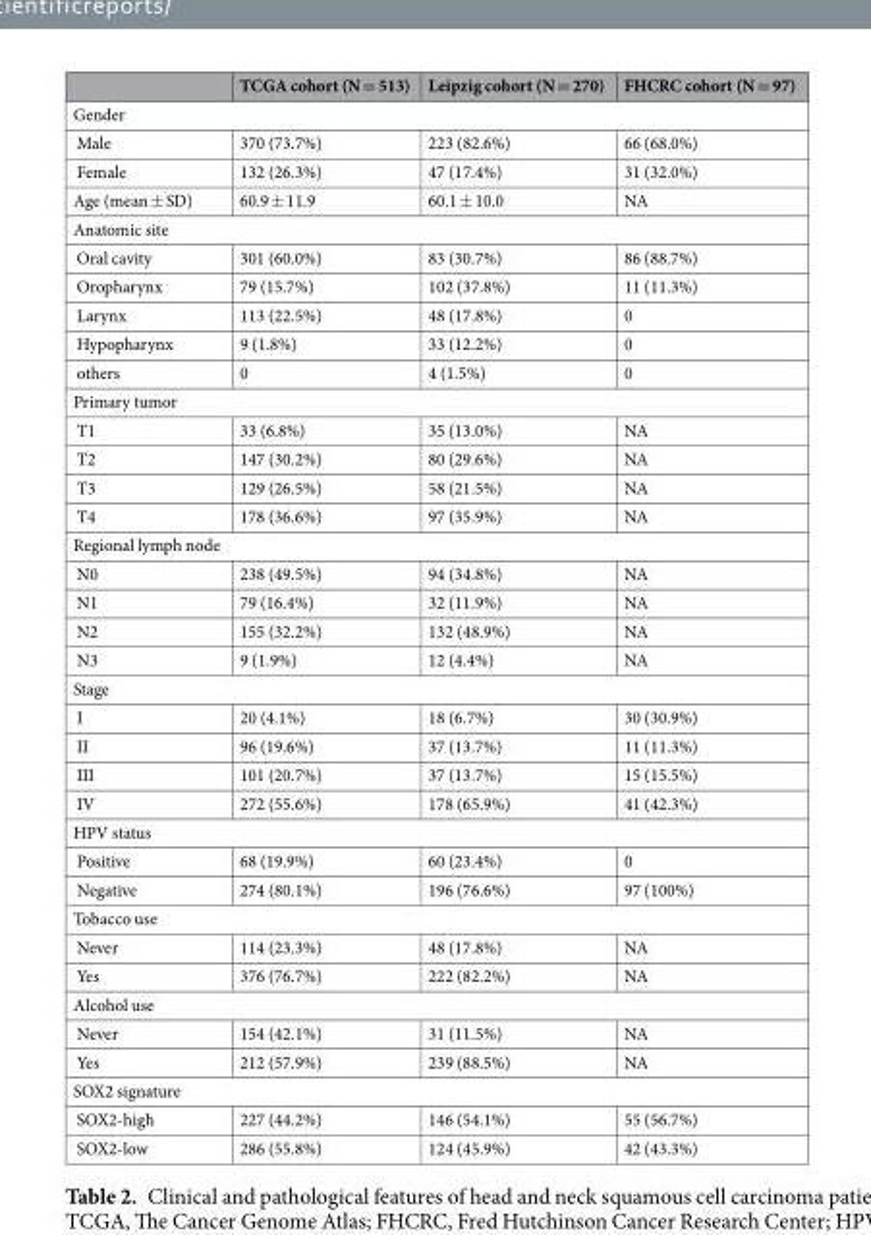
<table><thead><tr><td></td><td>TCGA cohort (N = 513)</td><td>Leipzig cohort (N = 270)</td><td>FHCRC cohort (N = 97)</td></tr></thead><tbody><tr><td colspan="4">Gender</td></tr><tr><td>Male</td><td>370 (73.7%)</td><td>223 (82.6%)</td><td>66 (68.0%)</td></tr><tr><td>Female</td><td>132 (26.3%)</td><td>47 (17.4%)</td><td>31 (32.0%)</td></tr><tr><td>Age (mean ± SD)</td><td>60.9 ± 11.9</td><td>60.1 ± 10.0</td><td>NA</td></tr><tr><td colspan="4">Anatomic site</td></tr><tr><td>Oral cavity</td><td>301 (60.0%)</td><td>83 (30.7%)</td><td>86 (88.7%)</td></tr><tr><td>Oropharynx</td><td>79 (15.7%)</td><td>102 (37.8%)</td><td>11 (11.3%)</td></tr><tr><td>Larynx</td><td>113 (22.5%)</td><td>48 (17.8%)</td><td>0</td></tr><tr><td>Hypopharynx</td><td>9 (1.8%)</td><td>33 (12.2%)</td><td>0</td></tr><tr><td>others</td><td>0</td><td>4 (1.5%)</td><td>0</td></tr><tr><td colspan="4">Primary tumor</td></tr><tr><td>T1</td><td>33 (6.8%)</td><td>35 (13.0%)</td><td>NA</td></tr><tr><td>T2</td><td>147 (30.2%)</td><td>80 (29.6%)</td><td>NA</td></tr><tr><td>T3</td><td>129 (26.5%)</td><td>58 (21.5%)</td><td>NA</td></tr><tr><td>T4</td><td>178 (36.6%)</td><td>97 (35.9%)</td><td>NA</td></tr><tr><td colspan="4">Regional lymph node</td></tr><tr><td>N0</td><td>238 (49.5%)</td><td>94 (34.8%)</td><td>NA</td></tr><tr><td>N1</td><td>79 (16.4%)</td><td>32 (11.9%)</td><td>NA</td></tr><tr><td>N2</td><td>155 (32.2%)</td><td>132 (48.9%)</td><td>NA</td></tr><tr><td>N3</td><td>9 (1.9%)</td><td>12 (4.4%)</td><td>NA</td></tr><tr><td colspan="4">Stage</td></tr><tr><td>I</td><td>20 (4.1%)</td><td>18 (6.7%)</td><td>30 (30.9%)</td></tr><tr><td>II</td><td>96 (19.6%)</td><td>37 (13.7%)</td><td>11 (11.3%)</td></tr><tr><td>III</td><td>101 (20.7%)</td><td>37 (13.7%)</td><td>15 (15.5%)</td></tr><tr><td>IV</td><td>272 (55.6%)</td><td>178 (65.9%)</td><td>41 (42.3%)</td></tr><tr><td colspan="4">HPV status</td></tr><tr><td>Positive</td><td>68 (19.9%)</td><td>60 (23.4%)</td><td>0</td></tr><tr><td>Negative</td><td>274 (80.1%)</td><td>196 (76.6%)</td><td>97 (100%)</td></tr><tr><td colspan="4">Tobacco use</td></tr><tr><td>Never</td><td>114 (23.3%)</td><td>48 (17.8%)</td><td>NA</td></tr><tr><td>Yes</td><td>376 (76.7%)</td><td>222 (82.2%)</td><td>NA</td></tr><tr><td colspan="4">Alcohol use</td></tr><tr><td>Never</td><td>154 (42.1%)</td><td>31 (11.5%)</td><td>NA</td></tr><tr><td>Yes</td><td>212 (57.9%)</td><td>239 (88.5%)</td><td>NA</td></tr><tr><td colspan="4">SOX2 signature</td></tr><tr><td>SOX2-high</td><td>227 (44.2%)</td><td>146 (54.1%)</td><td>55 (56.7%)</td></tr><tr><td>SOX2-low</td><td>286 (55.8%)</td><td>124 (45.9%)</td><td>42 (43.3%)</td></tr></tbody></table>